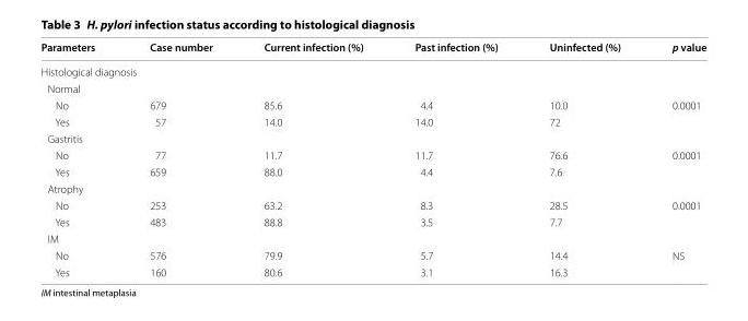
<table><thead><tr><td>Parameters</td><td>Case number</td><td>Current infection (%)</td><td>Past infection (%)</td><td>Uninfected (%)</td><td>p value</td></tr></thead><tbody><tr><td colspan="6">Histological diagnosis</td></tr><tr><td colspan="6">Normal</td></tr><tr><td>No</td><td>679</td><td>85.6</td><td>4.4</td><td>10.0</td><td rowspan="2">0.0001</td></tr><tr><td>Yes</td><td>57</td><td>14.0</td><td>14.0</td><td>72</td></tr><tr><td colspan="6">Gastritis</td></tr><tr><td>No</td><td>77</td><td>11.7</td><td>11.7</td><td>76.6</td><td rowspan="2">0.0001</td></tr><tr><td>Yes</td><td>659</td><td>88.0</td><td>4.4</td><td>7.6</td></tr><tr><td colspan="6">Atrophy</td></tr><tr><td>No</td><td>253</td><td>63.2</td><td>8.3</td><td>28.5</td><td rowspan="2">0.0001</td></tr><tr><td>Yes</td><td>483</td><td>88.8</td><td>3.5</td><td>7.7</td></tr><tr><td colspan="6">IM</td></tr><tr><td>No</td><td>576</td><td>79.9</td><td>5.7</td><td>14.4</td><td rowspan="2">NS</td></tr><tr><td>Yes</td><td>160</td><td>80.6</td><td>3.1</td><td>16.3</td></tr></tbody></table>